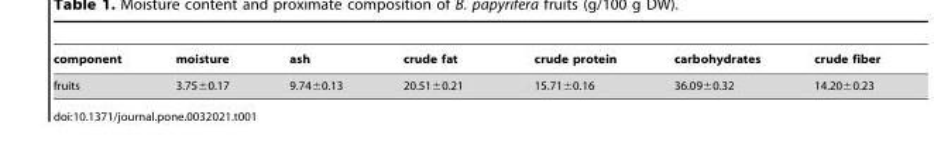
<table><thead><tr><td>component</td><td>moisture</td><td>ash</td><td>crude fat</td><td>crude protein</td><td>carbohydrates</td><td>crude fiber</td></tr></thead><tbody><tr><td>fruits</td><td>3.75±0.17</td><td>9.74±0.13</td><td>20.51±0.21</td><td>15.71±0.16</td><td>36.09±0.32</td><td>14.20±0.23</td></tr></tbody></table>